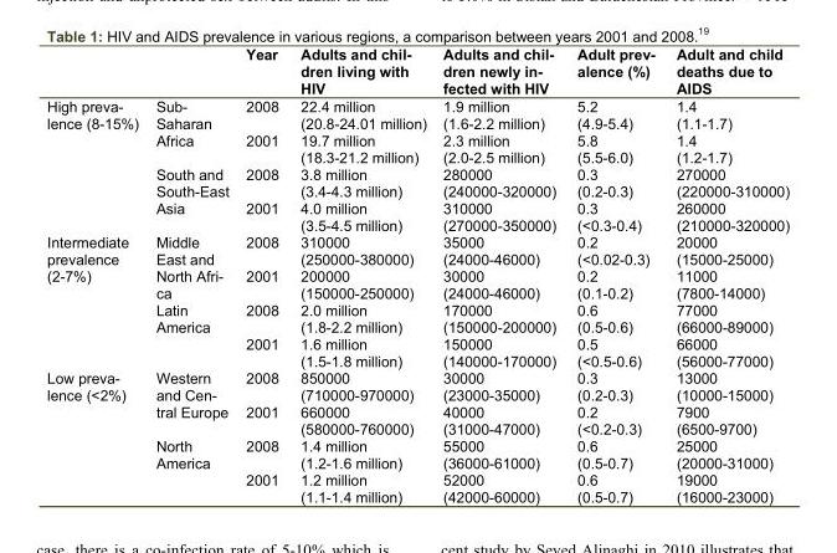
<table><thead><tr><td></td><td></td><td>Year</td><td>Adults and chil- dren living with HIV</td><td>Adults and chil- dren newly in- fected with HIV</td><td>Adult prev- alence (%)</td><td>Adult and child deaths due to AIDS</td></tr></thead><tbody><tr><td rowspan="4">High preva- lence (8-15%)</td><td rowspan="2">Sub- Saharan Africa</td><td>2008</td><td>22.4 million (20.8-24.01 million)</td><td>1.9 million (1.6-2.2 million)</td><td>5.2 (4.9-5.4)</td><td>1.4 (1.1-1.7)</td></tr><tr><td>2001</td><td>19.7 million (18.3-21.2 million)</td><td>2.3 million (2.0-2.5 million)</td><td>5.8 (5.5-6.0)</td><td>1.4 (1.2-1.7)</td></tr><tr><td rowspan="2">South and South-East Asia</td><td>2008</td><td>3.8 million (3.4-4.3 million)</td><td>280000 (240000-320000)</td><td>0.3 (0.2-0.3)</td><td>270000 (220000-310000)</td></tr><tr><td>2001</td><td>4.0 million (3.5-4.5 million)</td><td>310000 (270000-350000)</td><td>0.3 (&lt;0.3-0.4)</td><td>260000 (210000-320000)</td></tr><tr><td rowspan="4">Intermediate prevalence (2-7%)</td><td rowspan="2">Middle East and North Afri- ca</td><td>2008</td><td>310000 (250000-380000)</td><td>35000 (24000-46000)</td><td>0.2 (&lt;0.02-0.3)</td><td>20000 (15000-25000)</td></tr><tr><td>2001</td><td>200000 (150000-250000)</td><td>30000 (24000-46000)</td><td>0.2 (0.1-0.2)</td><td>11000 (7800-14000)</td></tr><tr><td rowspan="2">Latin America</td><td>2008</td><td>2.0 million (1.8-2.2 million)</td><td>170000 (150000-200000)</td><td>0.6 (0.5-0.6)</td><td>77000 (66000-89000)</td></tr><tr><td>2001</td><td>1.6 million (1.5-1.8 million)</td><td>150000 (140000-170000)</td><td>0.5 (&lt;0.5-0.6)</td><td>66000 (56000-77000)</td></tr><tr><td rowspan="4">Low preva- lence (&lt;2%)</td><td rowspan="2">Western and Cen- tral Europe</td><td>2008</td><td>850000 (710000-970000)</td><td>30000 (23000-35000)</td><td>0.3 (0.2-0.3)</td><td>13000 (10000-15000)</td></tr><tr><td>2001</td><td>660000 (580000-760000)</td><td>40000 (31000-47000)</td><td>0.2 (&lt;0.2-0.3)</td><td>7900 (6500-9700)</td></tr><tr><td rowspan="2">North America</td><td>2008</td><td>1.4 million (1.2-1.6 million)</td><td>55000 (36000-61000)</td><td>0.6 (0.5-0.7)</td><td>25000 (20000-31000)</td></tr><tr><td>2001</td><td>1.2 million (1.1-1.4 million)</td><td>52000 (42000-60000)</td><td>0.6 (0.5-0.7)</td><td>19000 (16000-23000)</td></tr></tbody></table>